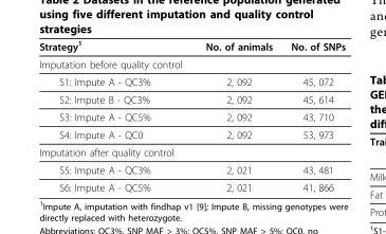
<table><thead><tr><td>Strategy<sup>1</sup></td><td>No. of animals</td><td>No. of SNPs</td></tr></thead><tbody><tr><td colspan="3">Imputation before quality control</td></tr><tr><td>S1: Impute A - QC3%</td><td>2, 092</td><td>45, 072</td></tr><tr><td>S2: Impute B - QC3%</td><td>2, 092</td><td>45, 614</td></tr><tr><td>S3: Impute A - QC5%</td><td>2, 092</td><td>43, 710</td></tr><tr><td>S4: Impute A - QC0</td><td>2, 092</td><td>53, 973</td></tr><tr><td colspan="3">Imputation after quality control</td></tr><tr><td>S5: Impute A - QC3%</td><td>2, 021</td><td>43, 481</td></tr><tr><td>S6: Impute A - QC5%</td><td>2, 021</td><td>41, 866</td></tr></tbody></table>